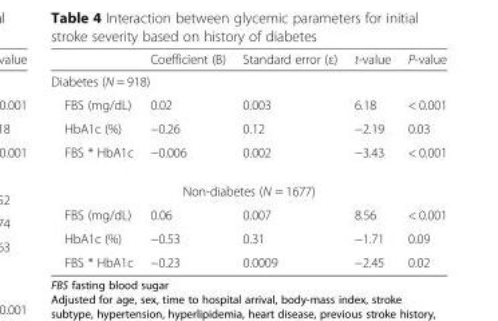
<table><thead><tr><td></td><td>Coefficient (B)</td><td>Standard error (ε)</td><td>t-value</td><td>P-value</td></tr></thead><tbody><tr><td colspan="5">Diabetes (N = 918)</td></tr><tr><td>FBS (mg/dL)</td><td>0.02</td><td>0.003</td><td>6.18</td><td>&lt; 0.001</td></tr><tr><td>HbA1c (%)</td><td>−0.26</td><td>0.12</td><td>−2.19</td><td>0.03</td></tr><tr><td>FBS * HbA1c</td><td>−0.006</td><td>0.002</td><td>−3.43</td><td>&lt; 0.001</td></tr><tr><td colspan="5">Non-diabetes (N = 1677)</td></tr><tr><td>FBS (mg/dL)</td><td>0.06</td><td>0.007</td><td>8.56</td><td>&lt; 0.001</td></tr><tr><td>HbA1c (%)</td><td>−0.53</td><td>0.31</td><td>−1.71</td><td>0.09</td></tr><tr><td>FBS * HbA1c</td><td>−0.23</td><td>0.0009</td><td>−2.45</td><td>0.02</td></tr></tbody></table>